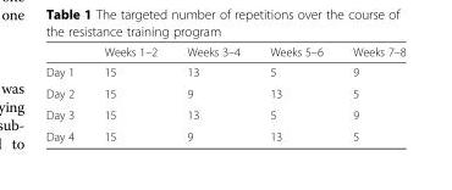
<table><thead><tr><td></td><td>Weeks 1–2</td><td>Weeks 3–4</td><td>Weeks 5–6</td><td>Weeks 7–8</td></tr></thead><tbody><tr><td>Day 1</td><td>15</td><td>13</td><td>5</td><td>9</td></tr><tr><td>Day 2</td><td>15</td><td>9</td><td>13</td><td>5</td></tr><tr><td>Day 3</td><td>15</td><td>13</td><td>5</td><td>9</td></tr><tr><td>Day 4</td><td>15</td><td>9</td><td>13</td><td>5</td></tr></tbody></table>